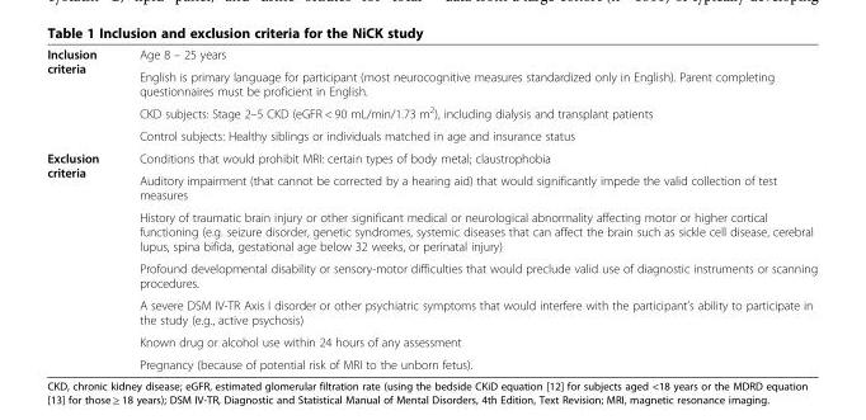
<table><tbody><tr><td rowspan="4">Inclusion criteria</td><td>Age 8 – 25 years</td></tr><tr><td>English is primary language for participant (most neurocognitive measures standardized only in English). Parent completing questionnaires must be proficient in English.</td></tr><tr><td>CKD subjects: Stage 2–5 CKD (eGFR &lt; 90 mL/min/1.73 m<sup>2</sup>), including dialysis and transplant patients</td></tr><tr><td>Control subjects: Healthy siblings or individuals matched in age and insurance status</td></tr><tr><td rowspan="7">Exclusion criteria</td><td>Conditions that would prohibit MRI: certain types of body metal; claustrophobia</td></tr><tr><td>Auditory impairment (that cannot be corrected by a hearing aid) that would significantly impede the valid collection of test measures</td></tr><tr><td>History of traumatic brain injury or other significant medical or neurological abnormality affecting motor or higher cortical functioning (e.g. seizure disorder, genetic syndromes, systemic diseases that can affect the brain such as sickle cell disease, cerebral lupus, spina bifida, gestational age below 32 weeks, or perinatal injury)</td></tr><tr><td>Profound developmental disability or sensory-motor difficulties that would preclude valid use of diagnostic instruments or scanning procedures.</td></tr><tr><td>A severe DSM IV-TR Axis I disorder or other psychiatric symptoms that would interfere with the participant’s ability to participate in the study (e.g., active psychosis)</td></tr><tr><td>Known drug or alcohol use within 24 hours of any assessment</td></tr><tr><td>Pregnancy (because of potential risk of MRI to the unborn fetus).</td></tr></tbody></table>